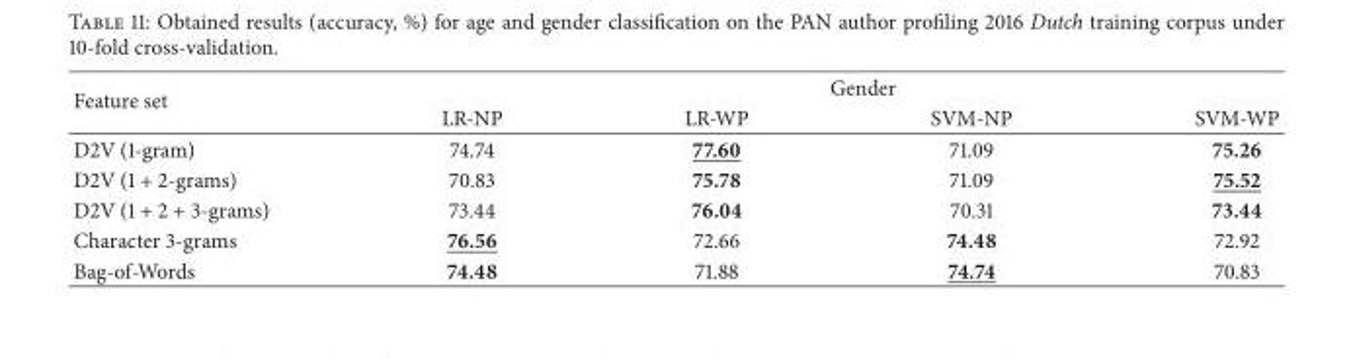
<table><thead><tr><td rowspan="2">Feature set</td><td colspan="4">Gender</td></tr><tr><td>LR-NP</td><td>LR-WP</td><td>SVM-NP</td><td>SVM-WP</td></tr></thead><tbody><tr><td>D2V (1-gram)</td><td>74.74</td><td>77.60</td><td>71.09</td><td>75.26</td></tr><tr><td>D2V (1 + 2-grams)</td><td>70.83</td><td>75.78</td><td>71.09</td><td>75.52</td></tr><tr><td>D2V (1 + 2 + 3-grams)</td><td>73.44</td><td>76.04</td><td>70.31</td><td>73.44</td></tr><tr><td>Character 3-grams</td><td>76.56</td><td>72.66</td><td>74.48</td><td>72.92</td></tr><tr><td>Bag-of-Words</td><td>74.48</td><td>71.88</td><td>74.74</td><td>70.83</td></tr></tbody></table>